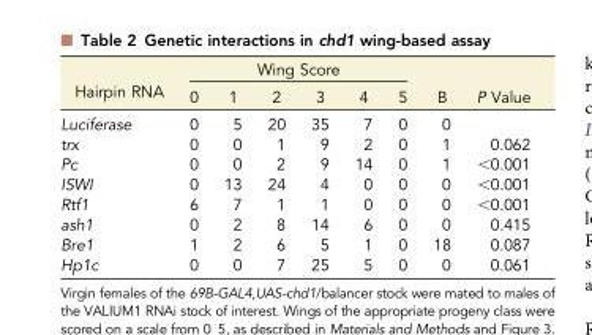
<table><thead><tr><td rowspan="2">Hairpin RNA</td><td colspan="6">Wing Score</td><td rowspan="2">B</td><td rowspan="2">P Value</td></tr><tr><td>0</td><td>1</td><td>2</td><td>3</td><td>4</td><td>5</td></tr></thead><tbody><tr><td>Luciferase</td><td>0</td><td>5</td><td>20</td><td>35</td><td>7</td><td>0</td><td>0</td><td></td></tr><tr><td>trx</td><td>0</td><td>0</td><td>1</td><td>9</td><td>2</td><td>0</td><td>1</td><td>0.062</td></tr><tr><td>Pc</td><td>0</td><td>0</td><td>2</td><td>9</td><td>14</td><td>0</td><td>1</td><td>&lt;0.001</td></tr><tr><td>ISWI</td><td>0</td><td>13</td><td>24</td><td>4</td><td>0</td><td>0</td><td>0</td><td>&lt;0.001</td></tr><tr><td>Rtf1</td><td>6</td><td>7</td><td>1</td><td>1</td><td>0</td><td>0</td><td>0</td><td>&lt;0.001</td></tr><tr><td>ash1</td><td>0</td><td>2</td><td>8</td><td>14</td><td>6</td><td>0</td><td>0</td><td>0.415</td></tr><tr><td>Bre1</td><td>1</td><td>2</td><td>6</td><td>5</td><td>1</td><td>0</td><td>18</td><td>0.087</td></tr><tr><td>Hp1c</td><td>0</td><td>0</td><td>7</td><td>25</td><td>5</td><td>0</td><td>0</td><td>0.061</td></tr></tbody></table>